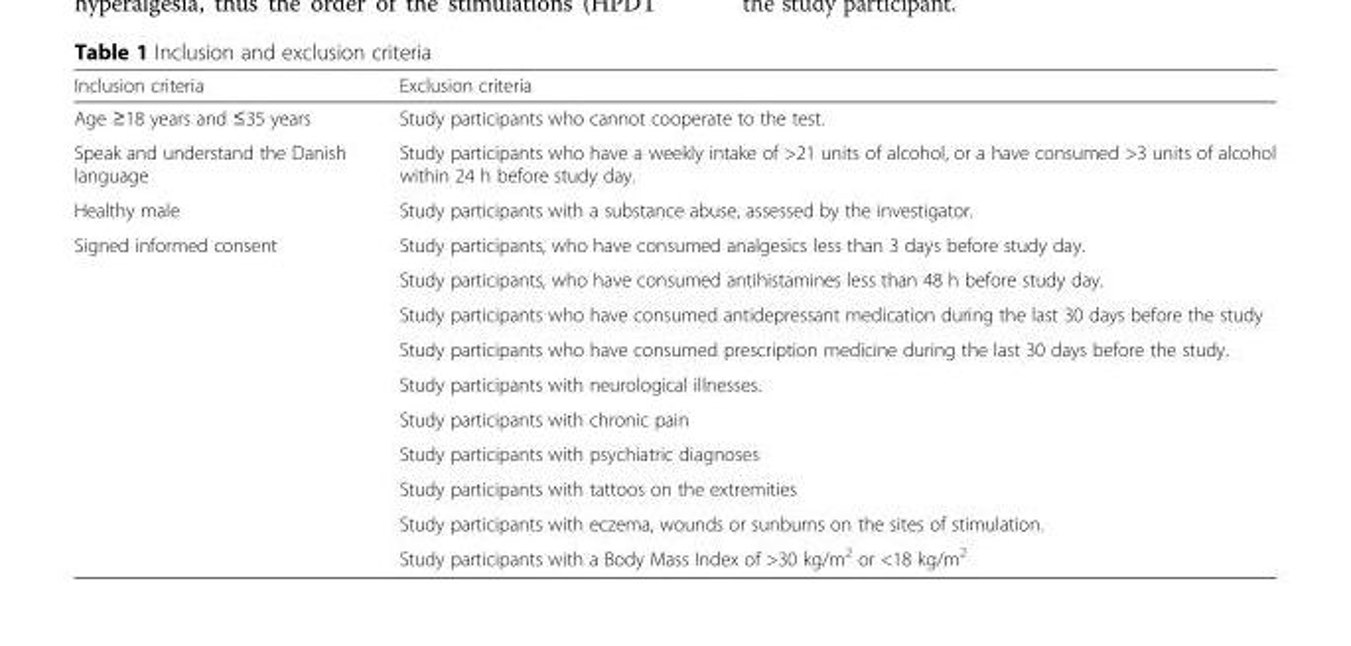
<table><thead><tr><td>Inclusion criteria</td><td>Exclusion criteria</td></tr></thead><tbody><tr><td>Age ≥18 years and ≤35 years</td><td>Study participants who cannot cooperate to the test.</td></tr><tr><td>Speak and understand the Danish language</td><td>Study participants who have a weekly intake of &gt;21 units of alcohol, or a have consumed &gt;3 units of alcohol within 24 h before study day.</td></tr><tr><td>Healthy male</td><td>Study participants with a substance abuse, assessed by the investigator.</td></tr><tr><td rowspan="10">Signed informed consent</td><td>Study participants, who have consumed analgesics less than 3 days before study day.</td></tr><tr><td>Study participants, who have consumed antihistamines less than 48 h before study day.</td></tr><tr><td>Study participants who have consumed antidepressant medication during the last 30 days before the study</td></tr><tr><td>Study participants who have consumed prescription medicine during the last 30 days before the study.</td></tr><tr><td>Study participants with neurological illnesses.</td></tr><tr><td>Study participants with chronic pain</td></tr><tr><td>Study participants with psychiatric diagnoses</td></tr><tr><td>Study participants with tattoos on the extremities</td></tr><tr><td>Study participants with eczema, wounds or sunburns on the sites of stimulation.</td></tr><tr><td>Study participants with a Body Mass Index of &gt;30 kg/m<sup>2</sup> or &lt;18 kg/m<sup>2</sup></td></tr></tbody></table>